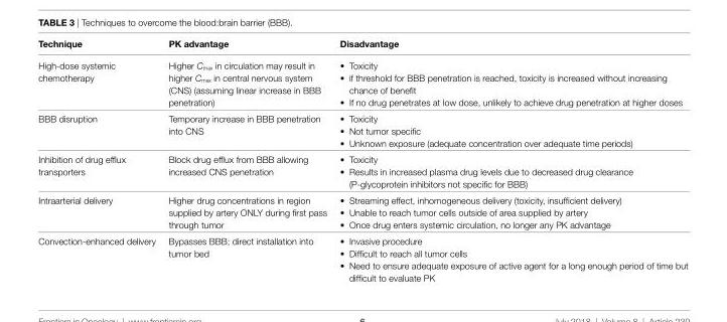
<table><thead><tr><td>Technique</td><td>PK advantage</td><td>Disadvantage</td></tr></thead><tbody><tr><td>High-dose systemic chemotherapy</td><td>Higher C<sub>max</sub> in circulation may result in higher C<sub>max</sub> in central nervous system (CNS) (assuming linear increase in BBB penetration)</td><td>• Toxicity • if threshold for BBB penetration is reached, toxicity is increased without increasing chance of benefit • If no drug penetrates at low dose, unlikely to achieve drug penetration at higher doses</td></tr><tr><td>BBB disruption</td><td>Temporary increase in BBB penetration into CNS</td><td>• Toxicity • Not tumor specific • Unknown exposure (adequate concentration over adequate time periods)</td></tr><tr><td>Inhibition of drug efflux transporters</td><td>Block drug efflux from BBB allowing increased CNS penetration</td><td>• Toxicity • Results in increased plasma drug levels due to decreased drug clearance (P-glycoprotein inhibitors not specific for BBB)</td></tr><tr><td>Intraarterial delivery</td><td>Higher drug concentrations in region supplied by artery ONLY during first pass through tumor</td><td>• Streaming effect, inhomogeneous delivery (toxicity, insufficient delivery) • Unable to reach tumor cells outside of area supplied by artery • Once drug enters systemic circulation, no longer any PK advantage</td></tr><tr><td>Convection-enhanced delivery</td><td>Bypasses BBB; direct installation into tumor bed</td><td>• Invasive procedure • Difficult to reach all tumor cells • Need to ensure adequate exposure of active agent for a long enough period of time but difficult to evaluate PK</td></tr></tbody></table>